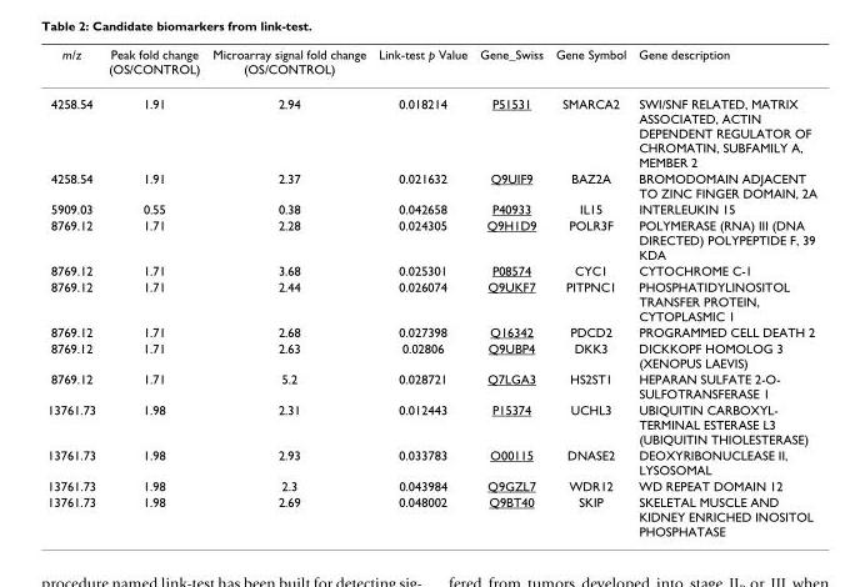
<table><thead><tr><td>m/z</td><td>Peak fold change (OS/CONTROL)</td><td>Microarray signal fold change (OS/CONTROL)</td><td>Link-test p Value</td><td>Gene_Swiss</td><td>Gene Symbol</td><td>Gene description</td></tr></thead><tbody><tr><td>4258.54</td><td>1.91</td><td>2.94</td><td>0.018214</td><td>P51531</td><td>SMARCA2</td><td>SWI/SNF RELATED, MATRIX ASSOCIATED, ACTIN DEPENDENT REGULATOR OF CHROMATIN, SUBFAMILY A, MEMBER 2</td></tr><tr><td>4258.54</td><td>1.91</td><td>2.37</td><td>0.021632</td><td>Q9UIF9</td><td>BAZ2A</td><td>BROMODOMAIN ADJACENT TO ZINC FINGER DOMAIN, 2A</td></tr><tr><td>5909.03</td><td>0.55</td><td>0.38</td><td>0.042658</td><td>P40933</td><td>IL15</td><td>INTERLEUKIN 15</td></tr><tr><td>8769.12</td><td>1.71</td><td>2.28</td><td>0.024305</td><td>Q9H1D9</td><td>POLR3F</td><td>POLYMERASE (RNA) III (DNA DIRECTED) POLYPEPTIDE F, 39 KDA</td></tr><tr><td>8769.12</td><td>1.71</td><td>3.68</td><td>0.025301</td><td>P08574</td><td>CYC1</td><td>CYTOCHROME C-1</td></tr><tr><td>8769.12</td><td>1.71</td><td>2.44</td><td>0.026074</td><td>Q9UKF7</td><td>PITPNC1</td><td>PHOSPHATIDYLINOSITOL TRANSFER PROTEIN, CYTOPLASMIC 1</td></tr><tr><td>8769.12</td><td>1.71</td><td>2.68</td><td>0.027398</td><td>Q16342</td><td>PDCD2</td><td>PROGRAMMED CELL DEATH 2</td></tr><tr><td>8769.12</td><td>1.71</td><td>2.63</td><td>0.02806</td><td>Q9UBP4</td><td>DKK3</td><td>DICKKOPF HOMOLOG 3 (XENOPUS LAEVIS)</td></tr><tr><td>8769.12</td><td>1.71</td><td>5.2</td><td>0.028721</td><td>Q7LGA3</td><td>HS2ST1</td><td>HEPARAN SULFATE 2-O- SULFOTRANSFERASE 1</td></tr><tr><td>13761.73</td><td>1.98</td><td>2.31</td><td>0.012443</td><td>P15374</td><td>UCHL3</td><td>UBIQUITIN CARBOXYL- TERMINAL ESTERASE L3 (UBIQUITIN THIOLESTERASE)</td></tr><tr><td>13761.73</td><td>1.98</td><td>2.93</td><td>0.033783</td><td>O00115</td><td>DNASE2</td><td>DEOXYRIBONUCLEASE II, LYSOSOMAL</td></tr><tr><td>13761.73</td><td>1.98</td><td>2.3</td><td>0.043984</td><td>Q9GZL7</td><td>WDR12</td><td>WD REPEAT DOMAIN 12</td></tr><tr><td>13761.73</td><td>1.98</td><td>2.69</td><td>0.048002</td><td>Q9BT40</td><td>SKIP</td><td>SKELETAL MUSCLE AND KIDNEY ENRICHED INOSITOL PHOSPHATASE</td></tr></tbody></table>